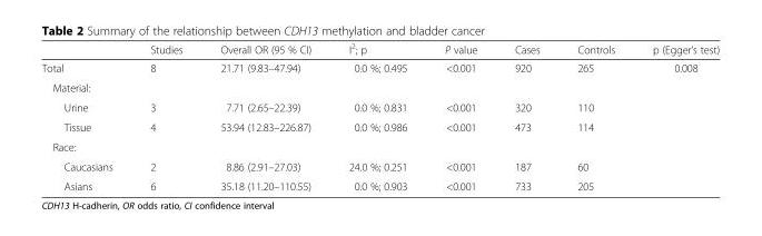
<table><thead><tr><td></td><td>Studies</td><td>Overall OR (95 % CI)</td><td>I<sup>2</sup>; p</td><td>P value</td><td>Cases</td><td>Controls</td><td>p (Egger’s test)</td></tr></thead><tbody><tr><td>Total</td><td>8</td><td>21.71 (9.83–47.94)</td><td>0.0 %; 0.495</td><td>&lt;0.001</td><td>920</td><td>265</td><td>0.008</td></tr><tr><td colspan="8">Material:</td></tr><tr><td>Urine</td><td>3</td><td>7.71 (2.65–22.39)</td><td>0.0 %; 0.831</td><td>&lt;0.001</td><td>320</td><td>110</td><td></td></tr><tr><td>Tissue</td><td>4</td><td>53.94 (12.83–226.87)</td><td>0.0 %; 0.986</td><td>&lt;0.001</td><td>473</td><td>114</td><td></td></tr><tr><td colspan="8">Race:</td></tr><tr><td>Caucasians</td><td>2</td><td>8.86 (2.91–27.03)</td><td>24.0 %; 0.251</td><td>&lt;0.001</td><td>187</td><td>60</td><td></td></tr><tr><td>Asians</td><td>6</td><td>35.18 (11.20–110.55)</td><td>0.0 %; 0.903</td><td>&lt;0.001</td><td>733</td><td>205</td><td></td></tr></tbody></table>